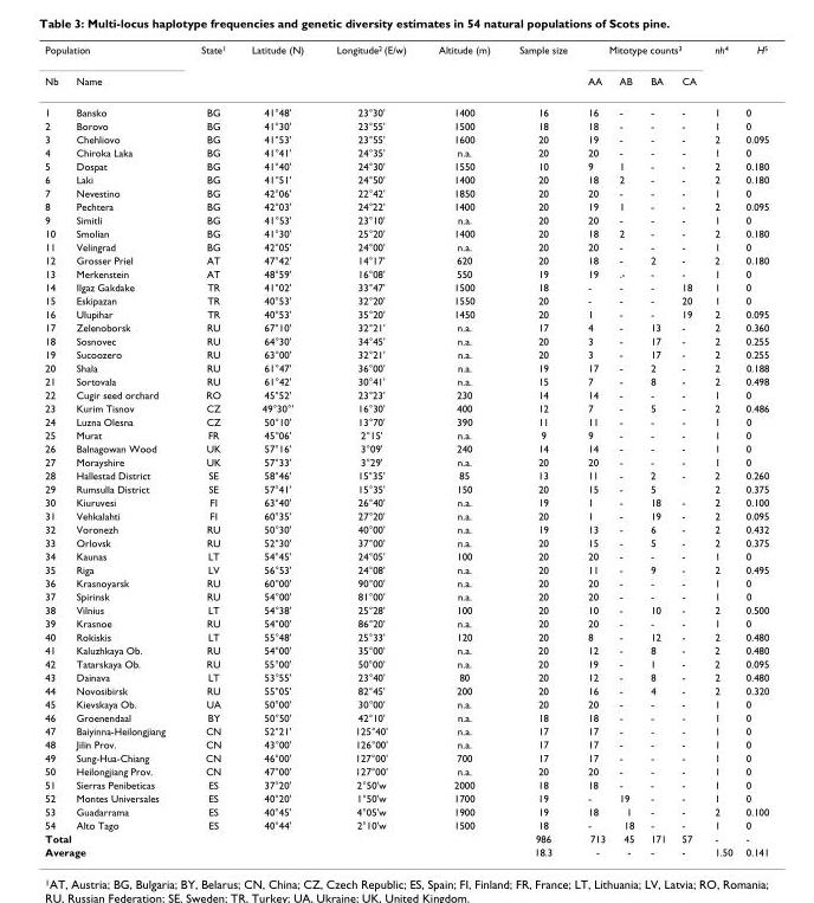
<table><thead><tr><td colspan="2">Population</td><td rowspan="2">State<sup>1</sup></td><td rowspan="2">Latitude (N)</td><td rowspan="2">Longitude<sup>2</sup> (E/w)</td><td rowspan="2">Altitude (m)</td><td rowspan="2">Sample size</td><td colspan="4">Mitotype counts<sup>3</sup></td><td rowspan="2">nh<sup>4</sup></td><td rowspan="2">H<sup>5</sup></td></tr><tr><td>Nb</td><td>Name</td><td>AA</td><td>AB</td><td>BA</td><td>CA</td></tr></thead><tbody><tr><td>1</td><td>Bansko</td><td>BG</td><td>41°48&#x27;</td><td>23°30&#x27;</td><td>1400</td><td>16</td><td>16</td><td>-</td><td>-</td><td>-</td><td>1</td><td>0</td></tr><tr><td>2</td><td>Borovo</td><td>BG</td><td>41°30&#x27;</td><td>23°55&#x27;</td><td>1500</td><td>18</td><td>18</td><td>-</td><td>-</td><td>-</td><td>1</td><td>0</td></tr><tr><td>3</td><td>Chehliovo</td><td>BG</td><td>41°53&#x27;</td><td>23°55&#x27;</td><td>1600</td><td>20</td><td>19</td><td>-</td><td>-</td><td>-</td><td>2</td><td>0.095</td></tr><tr><td>4</td><td>Chiroka Laka</td><td>BG</td><td>41°41&#x27;</td><td>24°35&#x27;</td><td>n.a.</td><td>20</td><td>20</td><td>-</td><td>-</td><td>-</td><td>1</td><td>0</td></tr><tr><td>5</td><td>Dospat</td><td>BG</td><td>41°40&#x27;</td><td>24°30&#x27;</td><td>1550</td><td>10</td><td>9</td><td>1</td><td>-</td><td>-</td><td>2</td><td>0.180</td></tr><tr><td>6</td><td>Laki</td><td>BG</td><td>41°51&#x27;</td><td>24°50&#x27;</td><td>1400</td><td>20</td><td>18</td><td>2</td><td>-</td><td>-</td><td>2</td><td>0.180</td></tr><tr><td>7</td><td>Nevestino</td><td>BG</td><td>42°06&#x27;</td><td>22°42&#x27;</td><td>1850</td><td>20</td><td>20</td><td>-</td><td>-</td><td>-</td><td>1</td><td>0</td></tr><tr><td>8</td><td>Pechtera</td><td>BG</td><td>42°03&#x27;</td><td>24°22&#x27;</td><td>1400</td><td>20</td><td>19</td><td>1</td><td>-</td><td>-</td><td>2</td><td>0.095</td></tr><tr><td>9</td><td>Simitli</td><td>BG</td><td>41°53&#x27;</td><td>23°10&#x27;</td><td>n.a.</td><td>20</td><td>20</td><td>-</td><td>-</td><td>-</td><td>1</td><td>0</td></tr><tr><td>10</td><td>Smolian</td><td>BG</td><td>41°30&#x27;</td><td>25°20&#x27;</td><td>1400</td><td>20</td><td>18</td><td>2</td><td>-</td><td>-</td><td>2</td><td>0.180</td></tr><tr><td>11</td><td>Velingrad</td><td>BG</td><td>42°05&#x27;</td><td>24°00&#x27;</td><td>n.a.</td><td>20</td><td>20</td><td>-</td><td>-</td><td>-</td><td>1</td><td>0</td></tr><tr><td>12</td><td>Grosser Priel</td><td>AT</td><td>47°42&#x27;</td><td>14°17&#x27;</td><td>620</td><td>20</td><td>18</td><td>-</td><td>2</td><td>-</td><td>2</td><td>0.180</td></tr><tr><td>13</td><td>Merkenstein</td><td>AT</td><td>48°59&#x27;</td><td>16°08&#x27;</td><td>550</td><td>19</td><td>19</td><td>.-</td><td>-</td><td>-</td><td>1</td><td>0</td></tr><tr><td>14</td><td>Ilgaz Gakdake</td><td>TR</td><td>41°02&#x27;</td><td>33°47&#x27;</td><td>1500</td><td>18</td><td>-</td><td>-</td><td>-</td><td>18</td><td>1</td><td>0</td></tr><tr><td>15</td><td>Eskipazan</td><td>TR</td><td>40°53&#x27;</td><td>32°20&#x27;</td><td>1550</td><td>20</td><td>-</td><td>-</td><td>-</td><td>20</td><td>1</td><td>0</td></tr><tr><td>16</td><td>Ulupihar</td><td>TR</td><td>40°53&#x27;</td><td>35°20&#x27;</td><td>1450</td><td>20</td><td>1</td><td>-</td><td>-</td><td>19</td><td>2</td><td>0.095</td></tr><tr><td>17</td><td>Zelenoborsk</td><td>RU</td><td>67°10&#x27;</td><td>32°21&#x27;</td><td>n.a.</td><td>17</td><td>4</td><td>-</td><td>13</td><td>-</td><td>2</td><td>0.360</td></tr><tr><td>18</td><td>Sosnovec</td><td>RU</td><td>64°30&#x27;</td><td>34°45&#x27;</td><td>n.a.</td><td>20</td><td>3</td><td>-</td><td>17</td><td>-</td><td>2</td><td>0.255</td></tr><tr><td>19</td><td>Sucoozero</td><td>RU</td><td>63°00&#x27;</td><td>32°21&#x27;</td><td>n.a.</td><td>20</td><td>3</td><td>-</td><td>17</td><td>-</td><td>2</td><td>0.255</td></tr><tr><td>20</td><td>Shala</td><td>RU</td><td>61°47&#x27;</td><td>36°00&#x27;</td><td>n.a.</td><td>19</td><td>17</td><td>-</td><td>2</td><td>-</td><td>2</td><td>0.188</td></tr><tr><td>21</td><td>Sortovala</td><td>RU</td><td>61°42&#x27;</td><td>30°41&#x27;</td><td>n.a.</td><td>15</td><td>7</td><td>-</td><td>8</td><td>-</td><td>2</td><td>0.498</td></tr><tr><td>22</td><td>Cugir seed orchard</td><td>RO</td><td>45°52&#x27;</td><td>23°23&#x27;</td><td>230</td><td>14</td><td>14</td><td>-</td><td>-</td><td>-</td><td>1</td><td>0</td></tr><tr><td>23</td><td>Kurim Tisnov</td><td>CZ</td><td>49°30°&#x27;</td><td>16°30&#x27;</td><td>400</td><td>12</td><td>7</td><td>-</td><td>5</td><td>-</td><td>2</td><td>0.486</td></tr><tr><td>24</td><td>Luzna Olesna</td><td>CZ</td><td>50°10&#x27;</td><td>13°70&#x27;</td><td>390</td><td>11</td><td>11</td><td>-</td><td>-</td><td>-</td><td>1</td><td>0</td></tr><tr><td>25</td><td>Murat</td><td>FR</td><td>45°06&#x27;</td><td>2°15&#x27;</td><td>n.a.</td><td>9</td><td>9</td><td>-</td><td>-</td><td>-</td><td>1</td><td>0</td></tr><tr><td>26</td><td>Balnagowan Wood</td><td>UK</td><td>57°16&#x27;</td><td>3°09&#x27;</td><td>240</td><td>14</td><td>14</td><td>-</td><td>-</td><td>-</td><td>1</td><td>0</td></tr><tr><td>27</td><td>Morayshire</td><td>UK</td><td>57°33&#x27;</td><td>3°29&#x27;</td><td>n.a.</td><td>20</td><td>20</td><td>-</td><td>-</td><td>-</td><td>1</td><td>0</td></tr><tr><td>28</td><td>Hallestad District</td><td>SE</td><td>58°46&#x27;</td><td>15°35&#x27;</td><td>85</td><td>13</td><td>11</td><td>-</td><td>2</td><td>-</td><td>2</td><td>0.260</td></tr><tr><td>29</td><td>Rumsulla District</td><td>SE</td><td>57°41&#x27;</td><td>15°35&#x27;</td><td>150</td><td>20</td><td>15</td><td>-</td><td>5</td><td></td><td>2</td><td>0.375</td></tr><tr><td>30</td><td>Kiuruvesi</td><td>FI</td><td>63°40&#x27;</td><td>26°40&#x27;</td><td>n.a.</td><td>19</td><td>1</td><td>-</td><td>18</td><td>-</td><td>2</td><td>0.100</td></tr><tr><td>31</td><td>Vehkalahti</td><td>FI</td><td>60°35&#x27;</td><td>27°20&#x27;</td><td>n.a.</td><td>20</td><td>1</td><td>-</td><td>19</td><td>-</td><td>2</td><td>0.095</td></tr><tr><td>32</td><td>Voronezh</td><td>RU</td><td>50°30&#x27;</td><td>40°00&#x27;</td><td>n.a.</td><td>19</td><td>13</td><td>-</td><td>6</td><td>-</td><td>2</td><td>0.432</td></tr><tr><td>33</td><td>Orlovsk</td><td>RU</td><td>52°30&#x27;</td><td>37°00&#x27;</td><td>n.a.</td><td>20</td><td>15</td><td>-</td><td>5</td><td>-</td><td>2</td><td>0.375</td></tr><tr><td>34</td><td>Kaunas</td><td>LT</td><td>54°45&#x27;</td><td>24°05&#x27;</td><td>100</td><td>20</td><td>20</td><td>-</td><td>-</td><td>-</td><td>1</td><td>0</td></tr><tr><td>35</td><td>Riga</td><td>LV</td><td>56°53&#x27;</td><td>24°08&#x27;</td><td>n.a.</td><td>20</td><td>11</td><td>-</td><td>9</td><td>-</td><td>2</td><td>0.495</td></tr><tr><td>36</td><td>Krasnoyarsk</td><td>RU</td><td>60°00&#x27;</td><td>90°00&#x27;</td><td>n.a.</td><td>20</td><td>20</td><td>-</td><td>-</td><td>-</td><td>1</td><td>0</td></tr><tr><td>37</td><td>Spirinsk</td><td>RU</td><td>54°00&#x27;</td><td>81°00&#x27;</td><td>n.a.</td><td>20</td><td>20</td><td>-</td><td>-</td><td>-</td><td>1</td><td>0</td></tr><tr><td>38</td><td>Vilnius</td><td>LT</td><td>54°38&#x27;</td><td>25°28&#x27;</td><td>100</td><td>20</td><td>10</td><td>-</td><td>10</td><td>-</td><td>2</td><td>0.500</td></tr><tr><td>39</td><td>Krasnoe</td><td>RU</td><td>54°00&#x27;</td><td>86°20&#x27;</td><td>n.a.</td><td>20</td><td>20</td><td>-</td><td>-</td><td>-</td><td>1</td><td>0</td></tr><tr><td>40</td><td>Rokiskis</td><td>LT</td><td>55°48&#x27;</td><td>25°33&#x27;</td><td>120</td><td>20</td><td>8</td><td>-</td><td>12</td><td>-</td><td>2</td><td>0.480</td></tr><tr><td>41</td><td>Kaluzhkaya Ob.</td><td>RU</td><td>54°00&#x27;</td><td>35°00&#x27;</td><td>n.a.</td><td>20</td><td>12</td><td>-</td><td>8</td><td>-</td><td>2</td><td>0.480</td></tr><tr><td>42</td><td>Tatarskaya Ob.</td><td>RU</td><td>55°00&#x27;</td><td>50°00&#x27;</td><td>n.a.</td><td>20</td><td>19</td><td>-</td><td>1</td><td>-</td><td>2</td><td>0.095</td></tr><tr><td>43</td><td>Dainava</td><td>LT</td><td>53°55&#x27;</td><td>23°40&#x27;</td><td>80</td><td>20</td><td>12</td><td>-</td><td>8</td><td>-</td><td>2</td><td>0.480</td></tr><tr><td>44</td><td>Novosibirsk</td><td>RU</td><td>55°05&#x27;</td><td>82°45&#x27;</td><td>200</td><td>20</td><td>16</td><td>-</td><td>4</td><td>-</td><td>2</td><td>0.320</td></tr><tr><td>45</td><td>Kievskaya Ob.</td><td>UA</td><td>50°00&#x27;</td><td>30°00&#x27;</td><td>n.a.</td><td>20</td><td>20</td><td>-</td><td>-</td><td>-</td><td>1</td><td>0</td></tr><tr><td>46</td><td>Groenendaal</td><td>BY</td><td>50°50&#x27;</td><td>42°10&#x27;</td><td>n.a.</td><td>18</td><td>18</td><td>-</td><td>-</td><td>-</td><td>1</td><td>0</td></tr><tr><td>47</td><td>Baiyinna-Heilongjiang</td><td>CN</td><td>52°21&#x27;</td><td>125°40&#x27;</td><td>n.a.</td><td>17</td><td>17</td><td>-</td><td>-</td><td>-</td><td>1</td><td>0</td></tr><tr><td>48</td><td>Jilin Prov.</td><td>CN</td><td>43°00&#x27;</td><td>126°00&#x27;</td><td>n.a.</td><td>17</td><td>17</td><td>-</td><td>-</td><td>-</td><td>1</td><td>0</td></tr><tr><td>49</td><td>Sung-Hua-Chiang</td><td>CN</td><td>46°00&#x27;</td><td>127°00&#x27;</td><td>700</td><td>17</td><td>17</td><td>-</td><td>-</td><td>-</td><td>1</td><td>0</td></tr><tr><td>50</td><td>Heilongjiang Prov.</td><td>CN</td><td>47°00&#x27;</td><td>127°00&#x27;</td><td>n.a.</td><td>20</td><td>20</td><td>-</td><td>-</td><td>-</td><td>1</td><td>0</td></tr><tr><td>51</td><td>Sierras Penibeticas</td><td>ES</td><td>37°20&#x27;</td><td>2°50&#x27;w</td><td>2000</td><td>18</td><td>18</td><td>-</td><td>-</td><td>-</td><td>1</td><td>0</td></tr><tr><td>52</td><td>Montes Universales</td><td>ES</td><td>40°20&#x27;</td><td>1°50&#x27;w</td><td>1700</td><td>19</td><td>-</td><td>19</td><td>-</td><td>-</td><td>1</td><td>0</td></tr><tr><td>53</td><td>Guadarrama</td><td>ES</td><td>40°45&#x27;</td><td>4°05&#x27;w</td><td>1900</td><td>19</td><td>18</td><td>1</td><td>-</td><td>-</td><td>2</td><td>0.100</td></tr><tr><td>54</td><td>Alto Tago</td><td>ES</td><td>40°44&#x27;</td><td>2°10&#x27;w</td><td>1500</td><td>18</td><td>-</td><td>18</td><td>-</td><td>-</td><td>1</td><td>0</td></tr><tr><td colspan="2">Total</td><td></td><td></td><td></td><td></td><td>986</td><td>713</td><td>45</td><td>171</td><td>57</td><td>-</td><td>-</td></tr><tr><td colspan="2">Average</td><td></td><td></td><td></td><td></td><td>18.3</td><td>-</td><td>-</td><td>-</td><td>-</td><td>1.50</td><td>0.141</td></tr></tbody></table>